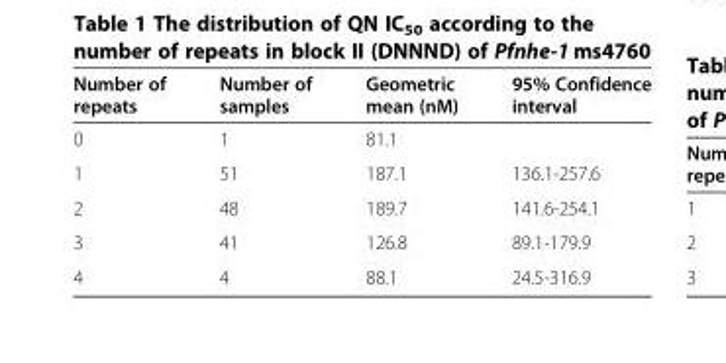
<table><thead><tr><td>Number of repeats</td><td>Number of samples</td><td>Geometric mean (nM)</td><td>95% Confidence interval</td></tr></thead><tbody><tr><td>0</td><td>1</td><td>81.1</td><td></td></tr><tr><td>1</td><td>51</td><td>187.1</td><td>136.1-257.6</td></tr><tr><td>2</td><td>48</td><td>189.7</td><td>141.6-254.1</td></tr><tr><td>3</td><td>41</td><td>126.8</td><td>89.1-179.9</td></tr><tr><td>4</td><td>4</td><td>88.1</td><td>24.5-316.9</td></tr></tbody></table>